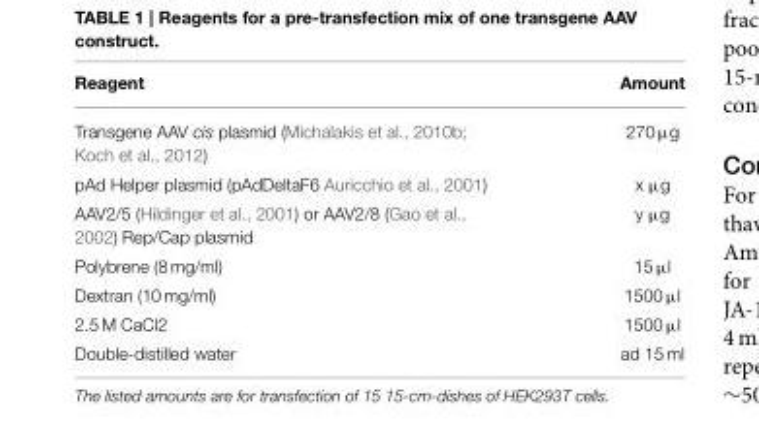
<table><thead><tr><td>Reagent</td><td>Amount</td></tr></thead><tbody><tr><td>Transgene AAV cis plasmid (Michalakis et al., 2010b; Koch et al., 2012)</td><td>270 µg</td></tr><tr><td>pAd Helper plasmid (pAdDeltaF6 Auricchio et al., 2001)</td><td>x µg</td></tr><tr><td>AAV2/5 (Hildinger et al., 2001) or AAV2/8 (Gao et al., 2002) Rep/Cap plasmid</td><td>y µg</td></tr><tr><td>Polybrene (8 mg/ml)</td><td>15 µl</td></tr><tr><td>Dextran (10 mg/ml)</td><td>1500 µl</td></tr><tr><td>2.5 M CaCl2</td><td>1500 µl</td></tr><tr><td>Double-distilled water</td><td>ad 15 ml</td></tr></tbody></table>